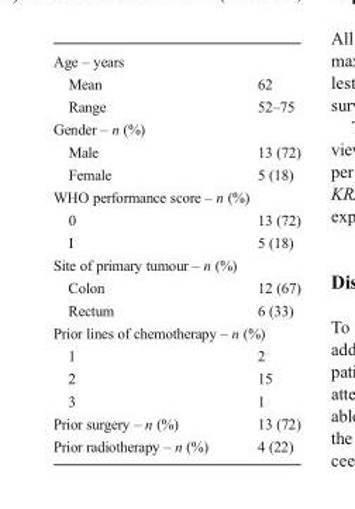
<table><tbody><tr><td colspan="2">Age – years</td></tr><tr><td>Mean</td><td>62</td></tr><tr><td>Range</td><td>52–75</td></tr><tr><td colspan="2">Gender – n (%)</td></tr><tr><td>Male</td><td>13 (72)</td></tr><tr><td>Female</td><td>5 (18)</td></tr><tr><td colspan="2">WHO performance score – n (%)</td></tr><tr><td>0</td><td>13 (72)</td></tr><tr><td>I</td><td>5 (18)</td></tr><tr><td colspan="2">Site of primary tumour – n (%)</td></tr><tr><td>Colon</td><td>12 (67)</td></tr><tr><td>Rectum</td><td>6 (33)</td></tr><tr><td colspan="2">Prior lines of chemotherapy – n (%)</td></tr><tr><td>1</td><td>2</td></tr><tr><td>2</td><td>15</td></tr><tr><td>3</td><td>1</td></tr><tr><td>Prior surgery – n (%)</td><td>13 (72)</td></tr><tr><td>Prior radiotherapy – n (%)</td><td>4 (22)</td></tr></tbody></table>